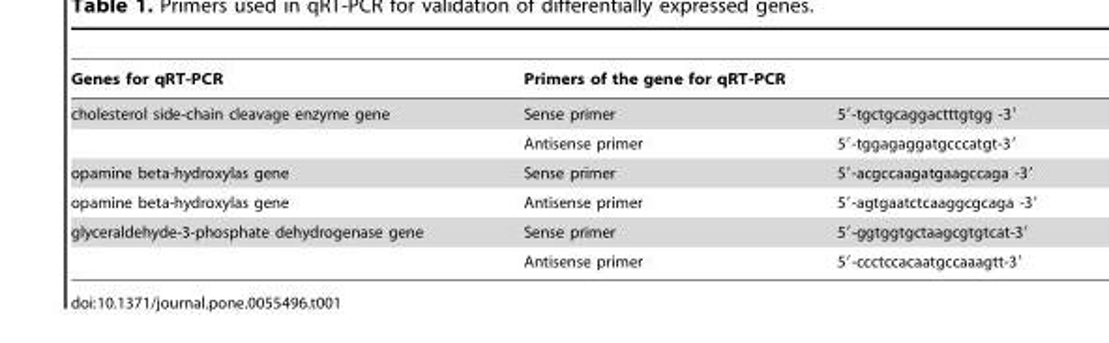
<table><thead><tr><td rowspan="2">Genes for qRT-PCR cholesterol side-chain cleavage enzyme gene</td><td colspan="2">Primers of the gene for qRT-PCR</td></tr><tr><td>Sense primer</td><td>5′-tgctgcaggactttgtgg -3′</td></tr></thead><tbody><tr><td></td><td>Antisense primer</td><td>5′-tggagaggatgcccatgt-3′</td></tr><tr><td>opamine beta-hydroxylas gene</td><td>Sense primer</td><td>5′-acgccaagatgaagccaga -3′</td></tr><tr><td>opamine beta-hydroxylas gene</td><td>Antisense primer</td><td>5′-agtgaatctcaaggcgcaga -3′</td></tr><tr><td rowspan="2">glyceraldehyde-3-phosphate dehydrogenase gene</td><td>Sense primer</td><td>5′-ggtggtgctaagcgtgtcat-3′</td></tr><tr><td>Antisense primer</td><td>5′-ccctccacaatgccaaagtt-3′</td></tr></tbody></table>